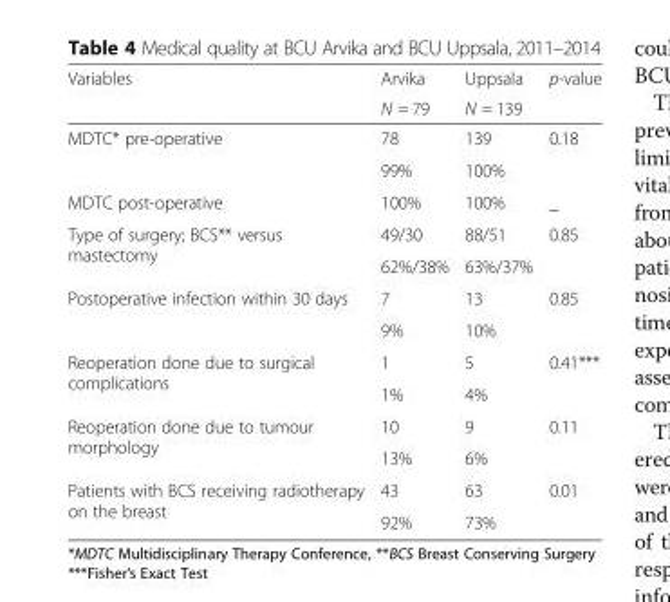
<table><thead><tr><td rowspan="2">Variables</td><td rowspan="2">Arvika N = 79</td><td rowspan="2">Uppsala N = 139</td><td rowspan="2">p-value</td></tr><tr></tr></thead><tbody><tr><td rowspan="2">MDTC* pre-operative</td><td>78</td><td>139</td><td rowspan="2">0.18</td></tr><tr><td>99%</td><td>100%</td></tr><tr><td>MDTC post-operative</td><td>100%</td><td>100%</td><td>_</td></tr><tr><td rowspan="2">Type of surgery; BCS** versus mastectomy</td><td>49/30</td><td>88/51</td><td rowspan="2">0.85</td></tr><tr><td>62%/38%</td><td>63%/37%</td></tr><tr><td rowspan="2">Postoperative infection within 30 days</td><td>7</td><td>13</td><td rowspan="2">0.85</td></tr><tr><td>9%</td><td>10%</td></tr><tr><td rowspan="2">Reoperation done due to surgical complications</td><td>1</td><td>5</td><td rowspan="2">0.41***</td></tr><tr><td>1%</td><td>4%</td></tr><tr><td rowspan="2">Reoperation done due to tumour morphology</td><td>10</td><td>9</td><td rowspan="2">0.11</td></tr><tr><td>13%</td><td>6%</td></tr><tr><td rowspan="2">Patients with BCS receiving radiotherapy on the breast</td><td>43</td><td>63</td><td rowspan="2">0.01</td></tr><tr><td>92%</td><td>73%</td></tr></tbody></table>